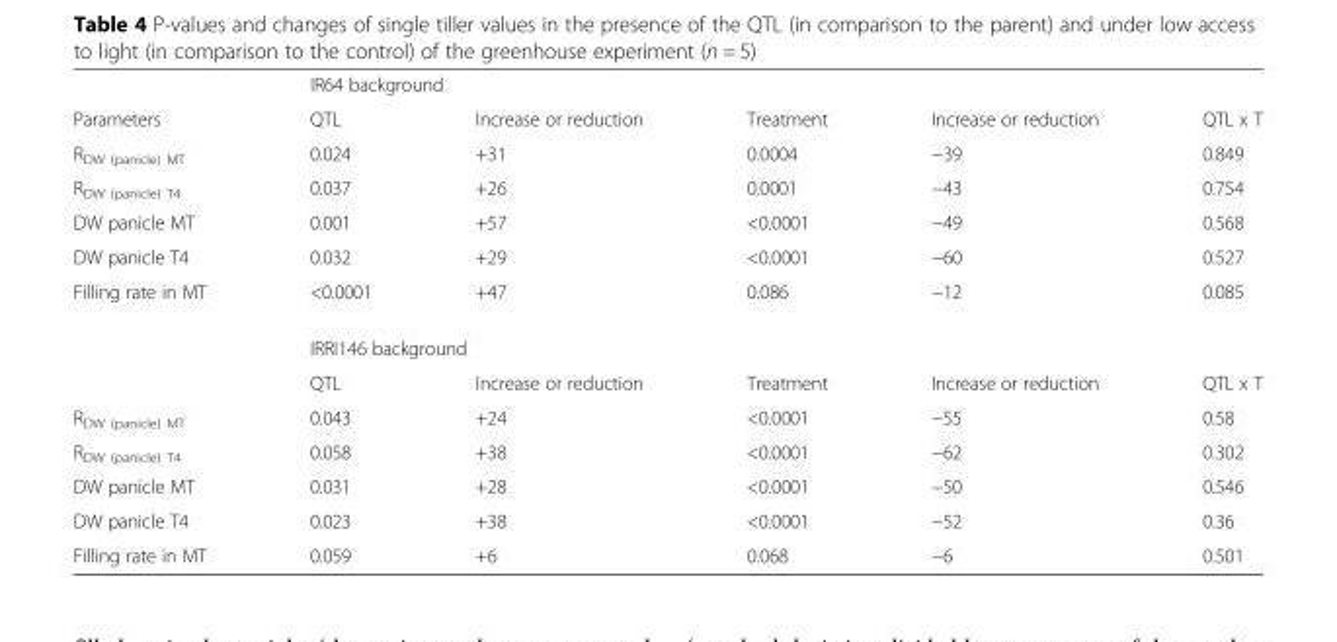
<table><thead><tr><td rowspan="2">Parameters</td><td colspan="5">IR64 background</td></tr><tr><td>QTL</td><td>Increase or reduction</td><td>Treatment</td><td>Increase or reduction</td><td>QTL x T</td></tr></thead><tbody><tr><td>R<sub>DW (panicle) MT</sub></td><td>0.024</td><td>+31</td><td>0.0004</td><td>−39</td><td>0.849</td></tr><tr><td>R<sub>DW (panicle) T4</sub></td><td>0.037</td><td>+26</td><td>0.0001</td><td>−43</td><td>0.754</td></tr><tr><td>DW panicle MT</td><td>0.001</td><td>+57</td><td>&lt;0.0001</td><td>−49</td><td>0.568</td></tr><tr><td>DW panicle T4</td><td>0.032</td><td>+29</td><td>&lt;0.0001</td><td>−60</td><td>0.527</td></tr><tr><td rowspan="3">Filling rate in MT</td><td>&lt;0.0001</td><td>+47</td><td>0.086</td><td>−12</td><td>0.085</td></tr><tr><td colspan="5">IRRI146 background</td></tr><tr><td>QTL</td><td>Increase or reduction</td><td>Treatment</td><td>Increase or reduction</td><td>QTL x T</td></tr><tr><td>R<sub>DW (panicle) MT</sub></td><td>0.043</td><td>+24</td><td>&lt;0.0001</td><td>−55</td><td>0.58</td></tr><tr><td>R<sub>DW (panicle) T4</sub></td><td>0.058</td><td>+38</td><td>&lt;0.0001</td><td>−62</td><td>0.302</td></tr><tr><td>DW panicle MT</td><td>0.031</td><td>+28</td><td>&lt;0.0001</td><td>−50</td><td>0.546</td></tr><tr><td>DW panicle T4</td><td>0.023</td><td>+38</td><td>&lt;0.0001</td><td>−52</td><td>0.36</td></tr><tr><td>Filling rate in MT</td><td>0.059</td><td>+6</td><td>0.068</td><td>−6</td><td>0.501</td></tr></tbody></table>